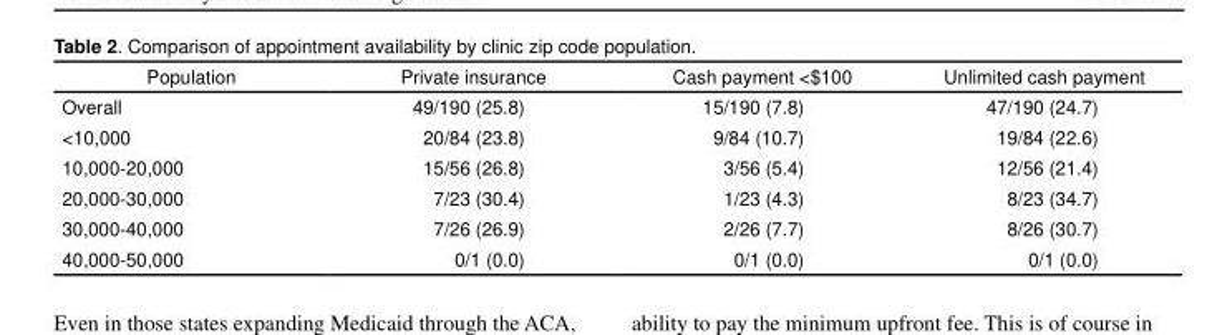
<table><thead><tr><td>Population</td><td>Private insurance</td><td>Cash payment &lt;$100</td><td>Unlimited cash payment</td></tr></thead><tbody><tr><td>Overall</td><td>49/190 (25.8)</td><td>15/190 (7.8)</td><td>47/190 (24.7)</td></tr><tr><td>&lt;10,000</td><td>20/84 (23.8)</td><td>9/84 (10.7)</td><td>19/84 (22.6)</td></tr><tr><td>10,000-20,000</td><td>15/56 (26.8)</td><td>3/56 (5.4)</td><td>12/56 (21.4)</td></tr><tr><td>20,000-30,000</td><td>7/23 (30.4)</td><td>1/23 (4.3)</td><td>8/23 (34.7)</td></tr><tr><td>30,000-40,000</td><td>7/26 (26.9)</td><td>2/26 (7.7)</td><td>8/26 (30.7)</td></tr><tr><td>40,000-50,000</td><td>0/1 (0.0)</td><td>0/1 (0.0)</td><td>0/1 (0.0)</td></tr></tbody></table>